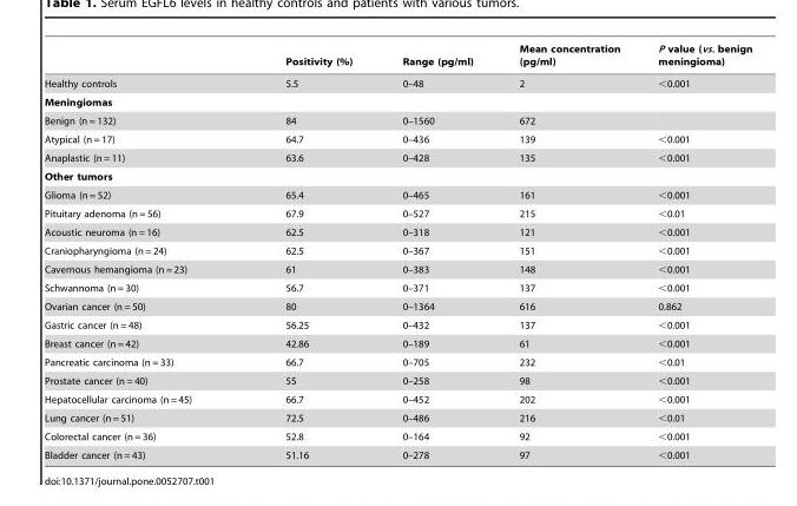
<table><thead><tr><td></td><td>Positivity (%)</td><td>Range (pg/ml)</td><td>Mean concentration (pg/ml)</td><td>P value (vs. benign meningioma)</td></tr></thead><tbody><tr><td>Healthy controls</td><td>5.5</td><td>0–48</td><td>2</td><td>&lt;0.001</td></tr><tr><td colspan="5">Meningiomas</td></tr><tr><td>Benign (n = 132)</td><td>84</td><td>0–1560</td><td>672</td><td></td></tr><tr><td>Atypical (n = 17)</td><td>64.7</td><td>0–436</td><td>139</td><td>&lt;0.001</td></tr><tr><td>Anaplastic (n = 11)</td><td>63.6</td><td>0–428</td><td>135</td><td>&lt;0.001</td></tr><tr><td colspan="5">Other tumors</td></tr><tr><td>Glioma (n = 52)</td><td>65.4</td><td>0–465</td><td>161</td><td>&lt;0.001</td></tr><tr><td>Pituitary adenoma (n = 56)</td><td>67.9</td><td>0–527</td><td>215</td><td>&lt;0.01</td></tr><tr><td>Acoustic neuroma (n = 16)</td><td>62.5</td><td>0–318</td><td>121</td><td>&lt;0.001</td></tr><tr><td>Craniopharyngioma (n = 24)</td><td>62.5</td><td>0–367</td><td>151</td><td>&lt;0.001</td></tr><tr><td>Cavernous hemangioma (n = 23)</td><td>61</td><td>0–383</td><td>148</td><td>&lt;0.001</td></tr><tr><td>Schwannoma (n = 30)</td><td>56.7</td><td>0–371</td><td>137</td><td>&lt;0.001</td></tr><tr><td>Ovarian cancer (n = 50)</td><td>80</td><td>0–1364</td><td>616</td><td>0.862</td></tr><tr><td>Gastric cancer (n = 48)</td><td>56.25</td><td>0–432</td><td>137</td><td>&lt;0.001</td></tr><tr><td>Breast cancer (n = 42)</td><td>42.86</td><td>0–189</td><td>61</td><td>&lt;0.001</td></tr><tr><td>Pancreatic carcinoma (n = 33)</td><td>66.7</td><td>0–705</td><td>232</td><td>&lt;0.01</td></tr><tr><td>Prostate cancer (n = 40)</td><td>55</td><td>0–258</td><td>98</td><td>&lt;0.001</td></tr><tr><td>Hepatocellular carcinoma (n = 45)</td><td>66.7</td><td>0–452</td><td>202</td><td>&lt;0.001</td></tr><tr><td>Lung cancer (n = 51)</td><td>72.5</td><td>0–486</td><td>216</td><td>&lt;0.01</td></tr><tr><td>Colorectal cancer (n = 36)</td><td>52.8</td><td>0–164</td><td>92</td><td>&lt;0.001</td></tr><tr><td>Bladder cancer (n = 43)</td><td>51.16</td><td>0–278</td><td>97</td><td>&lt;0.001</td></tr></tbody></table>